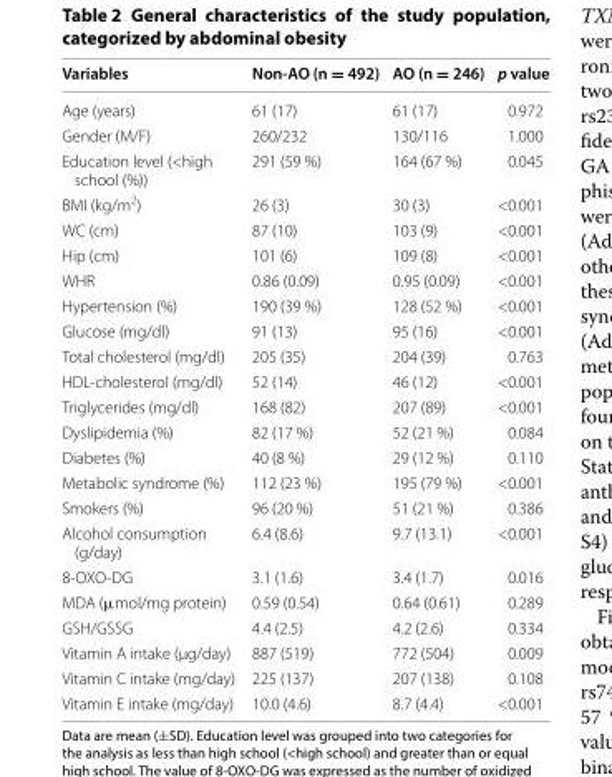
<table><thead><tr><td>Variables</td><td>Non‑AO (n = 492)</td><td>AO (n = 246)</td><td>p value</td></tr></thead><tbody><tr><td>Age (years)</td><td>61 (17)</td><td>61 (17)</td><td>0.972</td></tr><tr><td>Gender (M/F)</td><td>260/232</td><td>130/116</td><td>1.000</td></tr><tr><td>Education level (&lt;high school (%))</td><td>291 (59 %)</td><td>164 (67 %)</td><td>0.045</td></tr><tr><td>BMI (kg/m<sup>2</sup>)</td><td>26 (3)</td><td>30 (3)</td><td>&lt;0.001</td></tr><tr><td>WC (cm)</td><td>87 (10)</td><td>103 (9)</td><td>&lt;0.001</td></tr><tr><td>Hip (cm)</td><td>101 (6)</td><td>109 (8)</td><td>&lt;0.001</td></tr><tr><td>WHR</td><td>0.86 (0.09)</td><td>0.95 (0.09)</td><td>&lt;0.001</td></tr><tr><td>Hypertension (%)</td><td>190 (39 %)</td><td>128 (52 %)</td><td>&lt;0.001</td></tr><tr><td>Glucose (mg/dl)</td><td>91 (13)</td><td>95 (16)</td><td>&lt;0.001</td></tr><tr><td>Total cholesterol (mg/dl)</td><td>205 (35)</td><td>204 (39)</td><td>0.763</td></tr><tr><td>HDL‑cholesterol (mg/dl)</td><td>52 (14)</td><td>46 (12)</td><td>&lt;0.001</td></tr><tr><td>Triglycerides (mg/dl)</td><td>168 (82)</td><td>207 (89)</td><td>&lt;0.001</td></tr><tr><td>Dyslipidemia (%)</td><td>82 (17 %)</td><td>52 (21 %)</td><td>0.084</td></tr><tr><td>Diabetes (%)</td><td>40 (8 %)</td><td>29 (12 %)</td><td>0.110</td></tr><tr><td>Metabolic syndrome (%)</td><td>112 (23 %)</td><td>195 (79 %)</td><td>&lt;0.001</td></tr><tr><td>Smokers (%)</td><td>96 (20 %)</td><td>51 (21 %)</td><td>0.386</td></tr><tr><td>Alcohol consumption (g/day)</td><td>6.4 (8.6)</td><td>9.7 (13.1)</td><td>&lt;0.001</td></tr><tr><td>8‑OXO‑DG</td><td>3.1 (1.6)</td><td>3.4 (1.7)</td><td>0.016</td></tr><tr><td>MDA (μmol/mg protein)</td><td>0.59 (0.54)</td><td>0.64 (0.61)</td><td>0.289</td></tr><tr><td>GSH/GSSG</td><td>4.4 (2.5)</td><td>4.2 (2.6)</td><td>0.334</td></tr><tr><td>Vitamin A intake (µg/day)</td><td>887 (519)</td><td>772 (504)</td><td>0.009</td></tr><tr><td>Vitamin C intake (mg/day)</td><td>225 (137)</td><td>207 (138)</td><td>0.108</td></tr><tr><td>Vitamin E intake (mg/day)</td><td>10.0 (4.6)</td><td>8.7 (4.4)</td><td>&lt;0.001</td></tr></tbody></table>